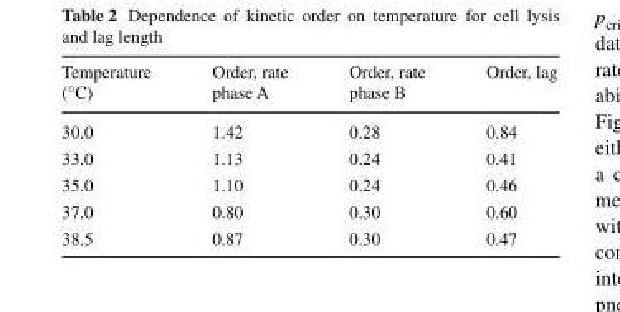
<table><thead><tr><td>Temperature (°C)</td><td>Order, rate phase A</td><td>Order, rate phase B</td><td>Order, lag</td></tr></thead><tbody><tr><td>30.0</td><td>1.42</td><td>0.28</td><td>0.84</td></tr><tr><td>33.0</td><td>1.13</td><td>0.24</td><td>0.41</td></tr><tr><td>35.0</td><td>1.10</td><td>0.24</td><td>0.46</td></tr><tr><td>37.0</td><td>0.80</td><td>0.30</td><td>0.60</td></tr><tr><td>38.5</td><td>0.87</td><td>0.30</td><td>0.47</td></tr></tbody></table>